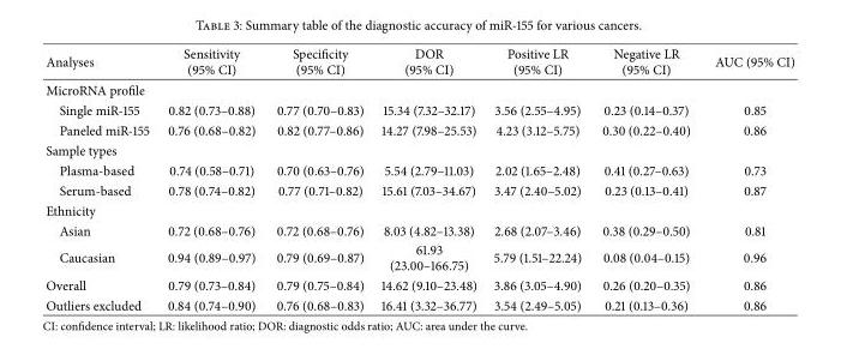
<table><thead><tr><td>Analyses</td><td>Sensitivity (95% CI)</td><td>Specificity (95% CI)</td><td>DOR (95% CI)</td><td>Positive LR (95% CI)</td><td>Negative LR (95% CI)</td><td>AUC (95% CI)</td></tr></thead><tbody><tr><td colspan="7">MicroRNA profile</td></tr><tr><td>Single miR-155</td><td>0.82 (0.73–0.88)</td><td>0.77 (0.70–0.83)</td><td>15.34 (7.32–32.17)</td><td>3.56 (2.55–4.95)</td><td>0.23 (0.14–0.37)</td><td>0.85</td></tr><tr><td>Paneled miR-155</td><td>0.76 (0.68–0.82)</td><td>0.82 (0.77–0.86)</td><td>14.27 (7.98–25.53)</td><td>4.23 (3.12–5.75)</td><td>0.30 (0.22–0.40)</td><td>0.86</td></tr><tr><td colspan="7">Sample types</td></tr><tr><td>Plasma-based</td><td>0.74 (0.58–0.71)</td><td>0.70 (0.63–0.76)</td><td>5.54 (2.79–11.03)</td><td>2.02 (1.65–2.48)</td><td>0.41 (0.27–0.63)</td><td>0.73</td></tr><tr><td>Serum-based</td><td>0.78 (0.74–0.82)</td><td>0.77 (0.71–0.82)</td><td>15.61 (7.03–34.67)</td><td>3.47 (2.40–5.02)</td><td>0.23 (0.13–0.41)</td><td>0.87</td></tr><tr><td colspan="7">Ethnicity</td></tr><tr><td>Asian</td><td>0.72 (0.68–0.76)</td><td>0.72 (0.68–0.76)</td><td>8.03 (4.82–13.38)</td><td>2.68 (2.07–3.46)</td><td>0.38 (0.29–0.50)</td><td>0.81</td></tr><tr><td>Caucasian</td><td>0.94 (0.89–0.97)</td><td>0.79 (0.69–0.87)</td><td>61.93 (23.00–166.75)</td><td>5.79 (1.51–22.24)</td><td>0.08 (0.04–0.15)</td><td>0.96</td></tr><tr><td>Overall</td><td>0.79 (0.73–0.84)</td><td>0.79 (0.75–0.84)</td><td>14.62 (9.10–23.48)</td><td>3.86 (3.05–4.90)</td><td>0.26 (0.20–0.35)</td><td>0.86</td></tr><tr><td>Outliers excluded</td><td>0.84 (0.74–0.90)</td><td>0.76 (0.68–0.83)</td><td>16.41 (3.32–36.77)</td><td>3.54 (2.49–5.05)</td><td>0.21 (0.13–0.36)</td><td>0.86</td></tr></tbody></table>